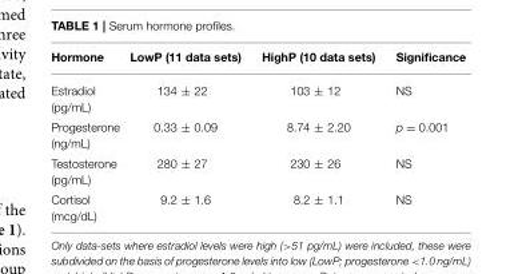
<table><thead><tr><td>Hormone</td><td>LowP (11 data sets)</td><td>HighP (10 data sets)</td><td>Significance</td></tr></thead><tbody><tr><td>Estradiol (pg/mL)</td><td>134 ± 22</td><td>103 ± 12</td><td>NS</td></tr><tr><td>Progesterone (ng/mL)</td><td>0.33 ± 0.09</td><td>8.74 ± 2.20</td><td>p = 0.001</td></tr><tr><td>Testosterone (pg/mL)</td><td>280 ± 27</td><td>230 ± 26</td><td>NS</td></tr><tr><td>Cortisol (mcg/dL)</td><td>9.2 ± 1.6</td><td>8.2 ± 1.1</td><td>NS</td></tr></tbody></table>